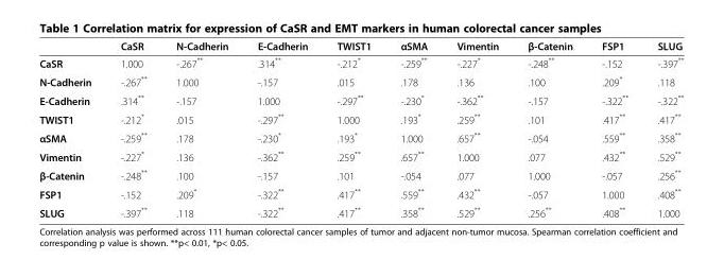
<table><thead><tr><td></td><td>CaSR</td><td>N-Cadherin</td><td>E-Cadherin</td><td>TWIST1</td><td>αSMA</td><td>Vimentin</td><td>β-Catenin</td><td>FSP1</td><td>SLUG</td></tr></thead><tbody><tr><td>CaSR</td><td>1.000</td><td>-.267**</td><td>.314**</td><td>-.212*</td><td>-.259**</td><td>-.227*</td><td>-.248**</td><td>-.152</td><td>-.397**</td></tr><tr><td>N-Cadherin</td><td>-.267**</td><td>1.000</td><td>-.157</td><td>.015</td><td>.178</td><td>.136</td><td>.100</td><td>.209*</td><td>.118</td></tr><tr><td>E-Cadherin</td><td>.314**</td><td>-.157</td><td>1.000</td><td>-.297**</td><td>-.230*</td><td>-.362**</td><td>-.157</td><td>-.322**</td><td>-.322**</td></tr><tr><td>TWIST1</td><td>-.212*</td><td>.015</td><td>-.297**</td><td>1.000</td><td>.193*</td><td>.259**</td><td>.101</td><td>.417**</td><td>.417**</td></tr><tr><td>αSMA</td><td>-.259**</td><td>.178</td><td>-.230*</td><td>.193*</td><td>1.000</td><td>.657**</td><td>-.054</td><td>.559**</td><td>.358**</td></tr><tr><td>Vimentin</td><td>-.227*</td><td>.136</td><td>-.362**</td><td>.259**</td><td>.657**</td><td>1.000</td><td>.077</td><td>.432**</td><td>.529**</td></tr><tr><td>β-Catenin</td><td>-.248**</td><td>.100</td><td>-.157</td><td>.101</td><td>-.054</td><td>.077</td><td>1.000</td><td>-.057</td><td>.256**</td></tr><tr><td>FSP1</td><td>-.152</td><td>.209*</td><td>-.322**</td><td>.417**</td><td>.559**</td><td>.432**</td><td>-.057</td><td>1.000</td><td>.408**</td></tr><tr><td>SLUG</td><td>-.397**</td><td>.118</td><td>-.322**</td><td>.417**</td><td>.358**</td><td>.529**</td><td>.256**</td><td>.408**</td><td>1.000</td></tr></tbody></table>